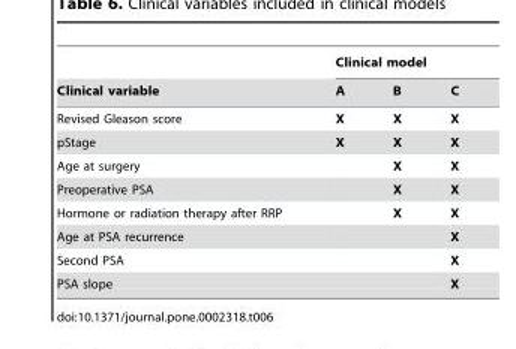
<table><thead><tr><td rowspan="2">Clinical variable</td><td colspan="3">Clinical model</td></tr><tr><td>A</td><td>B</td><td>C</td></tr></thead><tbody><tr><td>Revised Gleason score</td><td>X</td><td>X</td><td>X</td></tr><tr><td>pStage</td><td>X</td><td>X</td><td>X</td></tr><tr><td>Age at surgery</td><td></td><td>X</td><td>X</td></tr><tr><td>Preoperative PSA</td><td></td><td>X</td><td>X</td></tr><tr><td>Hormone or radiation therapy after RRP</td><td></td><td>X</td><td>X</td></tr><tr><td>Age at PSA recurrence</td><td></td><td></td><td>X</td></tr><tr><td>Second PSA</td><td></td><td></td><td>X</td></tr><tr><td>PSA slope</td><td></td><td></td><td>X</td></tr></tbody></table>